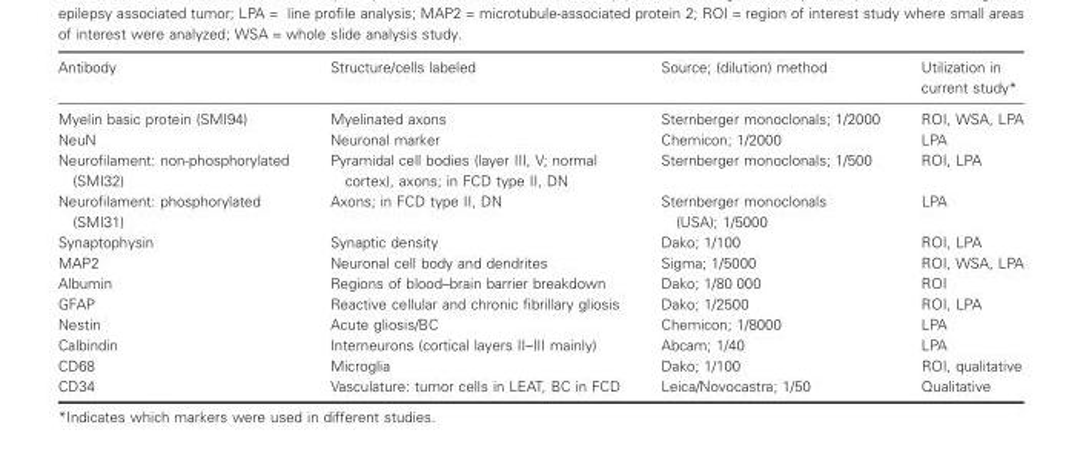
<table><thead><tr><td>Antibody</td><td>Structure/cells labeled</td><td>Source; (dilution) method</td><td>Utilization in current study*</td></tr></thead><tbody><tr><td>Myelin basic protein (SMI94)</td><td>Myelinated axons</td><td>Sternberger monoclonals; 1/2000</td><td>ROI, WSA, LPA</td></tr><tr><td>NeuN</td><td>Neuronal marker</td><td>Chemicon; 1/2000</td><td>LPA</td></tr><tr><td>Neurofilament: non-phosphorylated (SMI32)</td><td>Pyramidal cell bodies (layer III, V; normal cortex), axons; in FCD type II, DN</td><td>Sternberger monoclonals; 1/500</td><td>ROI, LPA</td></tr><tr><td>Neurofilament: phosphorylated (SMI31)</td><td>Axons; in FCD type II, DN</td><td>Sternberger monoclonals (USA); 1/5000</td><td>LPA</td></tr><tr><td>Synaptophysin</td><td>Synaptic density</td><td>Dako; 1/100</td><td>ROI, LPA</td></tr><tr><td>MAP2</td><td>Neuronal cell body and dendrites</td><td>Sigma; 1/5000</td><td>ROI, WSA, LPA</td></tr><tr><td>Albumin</td><td>Regions of blood–brain barrier breakdown</td><td>Dako; 1/80 000</td><td>ROI</td></tr><tr><td>GFAP</td><td>Reactive cellular and chronic fibrillary gliosis</td><td>Dako; 1/2500</td><td>ROI, LPA</td></tr><tr><td>Nestin</td><td>Acute gliosis/BC</td><td>Chemicon; 1/8000</td><td>LPA</td></tr><tr><td>Calbindin</td><td>Interneurons (cortical layers II–III mainly)</td><td>Abcam; 1/40</td><td>LPA</td></tr><tr><td>CD68</td><td>Microglia</td><td>Dako; 1/100</td><td>ROI, qualitative</td></tr><tr><td>CD34</td><td>Vasculature: tumor cells in LEAT, BC in FCD</td><td>Leica/Novocastra; 1/50</td><td>Qualitative</td></tr></tbody></table>